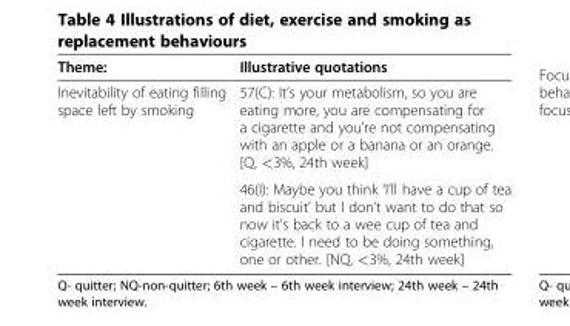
<table><thead><tr><td>Theme:</td><td>Illustrative quotations</td></tr></thead><tbody><tr><td rowspan="2">Inevitability of eating filling space left by smoking</td><td>57(C): It’s your metabolism, so you are eating more, you are compensating for a cigarette and you’re not compensating with an apple or a banana or an orange. [Q, &lt;3%, 24th week]</td></tr><tr><td>46(I): Maybe you think ‘I’ll have a cup of tea and biscuit’ but I don’t want to do that so now it’s back to a wee cup of tea and cigarette. I need to be doing something, one or other. [NQ, &lt;3%, 24th week]</td></tr></tbody></table>